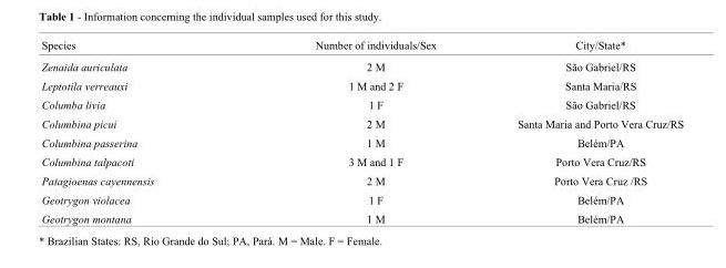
<table><thead><tr><td>Species</td><td>Number of individuals/Sex</td><td>City/State*</td></tr></thead><tbody><tr><td>Zenaida auriculata</td><td>2 M</td><td>São Gabriel/RS</td></tr><tr><td>Leptotila verreauxi</td><td>1 M and 2 F</td><td>Santa Maria/RS</td></tr><tr><td>Columba livia</td><td>1 F</td><td>São Gabriel/RS</td></tr><tr><td>Columbina picui</td><td>2 M</td><td>Santa Maria and Porto Vera Cruz/RS</td></tr><tr><td>Columbina passerina</td><td>1 M</td><td>Belém/PA</td></tr><tr><td>Columbina talpacoti</td><td>3 M and 1 F</td><td>Porto Vera Cruz/RS</td></tr><tr><td>Patagioenas cayennensis</td><td>2 M</td><td>Porto Vera Cruz /RS</td></tr><tr><td>Geotrygon violacea</td><td>1 F</td><td>Belém/PA</td></tr><tr><td>Geotrygon montana</td><td>1 M</td><td>Belém/PA</td></tr></tbody></table>